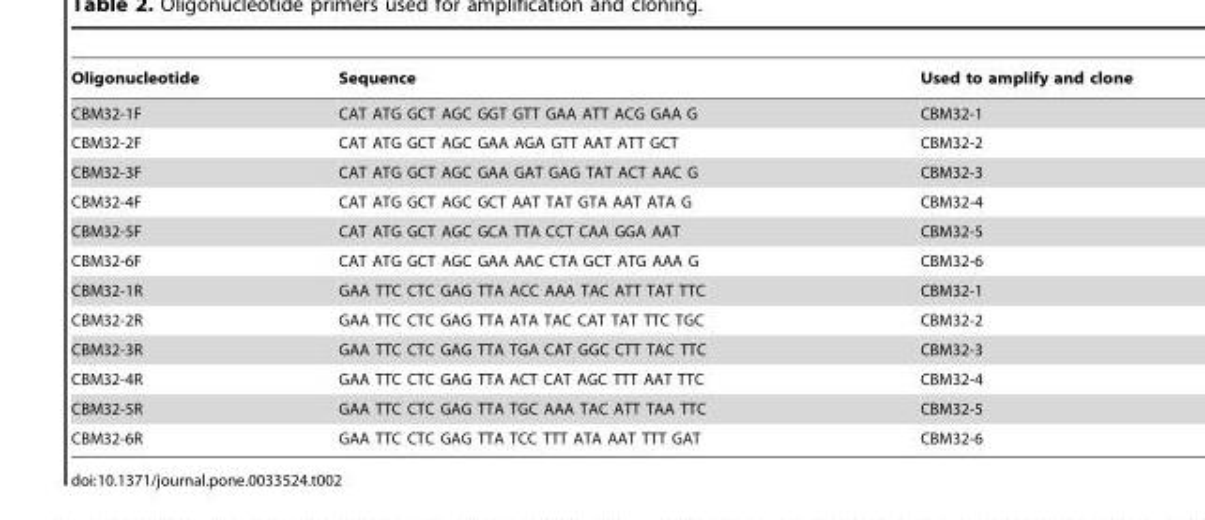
<table><thead><tr><td>Oligonucleotide</td><td>Sequence</td><td>Used to amplify and clone</td></tr></thead><tbody><tr><td>CBM32-1F</td><td>CAT ATG GCT AGC GGT GTT GAA ATT ACG GAA G</td><td>CBM32-1</td></tr><tr><td>CBM32-2F</td><td>CAT ATG GCT AGC GAA AGA GTT AAT ATT GCT</td><td>CBM32-2</td></tr><tr><td>CBM32-3F</td><td>CAT ATG GCT AGC GAA GAT GAG TAT ACT AAC G</td><td>CBM32-3</td></tr><tr><td>CBM32-4F</td><td>CAT ATG GCT AGC GCT AAT TAT GTA AAT ATA G</td><td>CBM32-4</td></tr><tr><td>CBM32-5F</td><td>CAT ATG GCT AGC GCA TTA CCT CAA GGA AAT</td><td>CBM32-5</td></tr><tr><td>CBM32-6F</td><td>CAT ATG GCT AGC GAA AAC CTA GCT ATG AAA G</td><td>CBM32-6</td></tr><tr><td>CBM32-1R</td><td>GAA TTC CTC GAG TTA ACC AAA TAC ATT TAT TTC</td><td>CBM32-1</td></tr><tr><td>CBM32-2R</td><td>GAA TTC CTC GAG TTA ATA TAC CAT TAT TTC TGC</td><td>CBM32-2</td></tr><tr><td>CBM32-3R</td><td>GAA TTC CTC GAG TTA TGA CAT GGC CTT TAC TTC</td><td>CBM32-3</td></tr><tr><td>CBM32-4R</td><td>GAA TTC CTC GAG TTA ACT CAT AGC TTT AAT TTC</td><td>CBM32-4</td></tr><tr><td>CBM32-5R</td><td>GAA TTC CTC GAG TTA TGC AAA TAC ATT TAA TTC</td><td>CBM32-5</td></tr><tr><td>CBM32-6R</td><td>GAA TTC CTC GAG TTA TCC TTT ATA AAT TTT GAT</td><td>CBM32-6</td></tr></tbody></table>